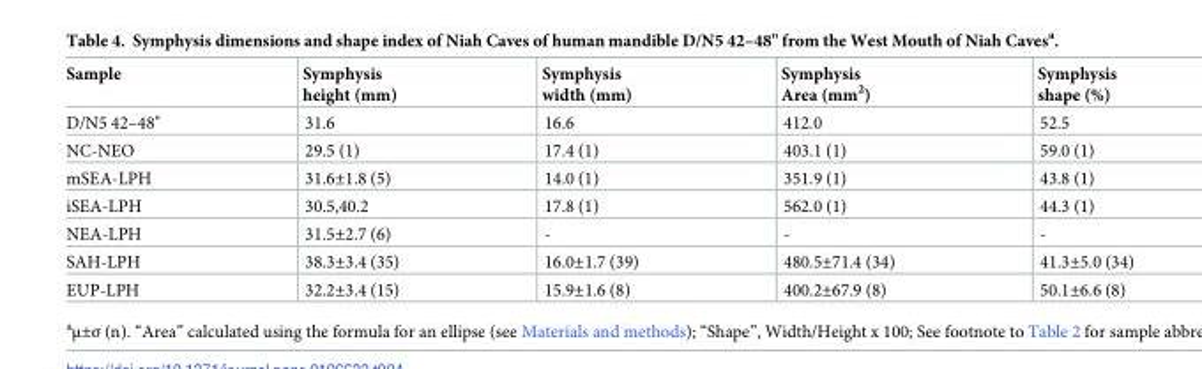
<table><thead><tr><td>Sample</td><td>Symphysis height (mm)</td><td>Symphysis width (mm)</td><td>Symphysis Area (mm<sup>2</sup>)</td><td>Symphysis shape (%)</td></tr></thead><tbody><tr><td>D/N5 42–48&quot;</td><td>31.6</td><td>16.6</td><td>412.0</td><td>52.5</td></tr><tr><td>NC-NEO</td><td>29.5 (1)</td><td>17.4 (1)</td><td>403.1 (1)</td><td>59.0 (1)</td></tr><tr><td>mSEA-LPH</td><td>31.6±1.8 (5)</td><td>14.0 (1)</td><td>351.9 (1)</td><td>43.8 (1)</td></tr><tr><td>iSEA-LPH</td><td>30.5,40.2</td><td>17.8 (1)</td><td>562.0 (1)</td><td>44.3 (1)</td></tr><tr><td>NEA-LPH</td><td>31.5±2.7 (6)</td><td>-</td><td>-</td><td>-</td></tr><tr><td>SAH-LPH</td><td>38.3±3.4 (35)</td><td>16.0±1.7 (39)</td><td>480.5±71.4 (34)</td><td>41.3±5.0 (34)</td></tr><tr><td>EUP-LPH</td><td>32.2±3.4 (15)</td><td>15.9±1.6 (8)</td><td>400.2±67.9 (8)</td><td>50.1±6.6 (8)</td></tr></tbody></table>